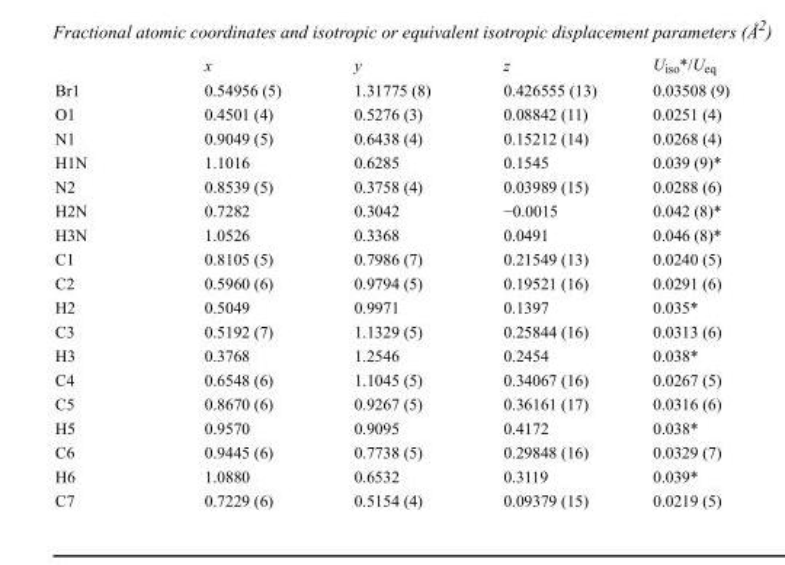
<table><thead><tr><td></td><td>x</td><td>y</td><td>z</td><td>U<sub>iso</sub>*/U<sub>eq</sub></td></tr></thead><tbody><tr><td>Br1</td><td>0.54956 (5)</td><td>1.31775 (8)</td><td>0.426555 (13)</td><td>0.03508 (9)</td></tr><tr><td>O1</td><td>0.4501 (4)</td><td>0.5276 (3)</td><td>0.08842 (11)</td><td>0.0251 (4)</td></tr><tr><td>N1</td><td>0.9049 (5)</td><td>0.6438 (4)</td><td>0.15212 (14)</td><td>0.0268 (4)</td></tr><tr><td>H1N</td><td>1.1016</td><td>0.6285</td><td>0.1545</td><td>0.039 (9)*</td></tr><tr><td>N2</td><td>0.8539 (5)</td><td>0.3758 (4)</td><td>0.03989 (15)</td><td>0.0288 (6)</td></tr><tr><td>H2N</td><td>0.7282</td><td>0.3042</td><td>−0.0015</td><td>0.042 (8)*</td></tr><tr><td>H3N</td><td>1.0526</td><td>0.3368</td><td>0.0491</td><td>0.046 (8)*</td></tr><tr><td>C1</td><td>0.8105 (5)</td><td>0.7986 (7)</td><td>0.21549 (13)</td><td>0.0240 (5)</td></tr><tr><td>C2</td><td>0.5960 (6)</td><td>0.9794 (5)</td><td>0.19521 (16)</td><td>0.0291 (6)</td></tr><tr><td>H2</td><td>0.5049</td><td>0.9971</td><td>0.1397</td><td>0.035*</td></tr><tr><td>C3</td><td>0.5192 (7)</td><td>1.1329 (5)</td><td>0.25844 (16)</td><td>0.0313 (6)</td></tr><tr><td>H3</td><td>0.3768</td><td>1.2546</td><td>0.2454</td><td>0.038*</td></tr><tr><td>C4</td><td>0.6548 (6)</td><td>1.1045 (5)</td><td>0.34067 (16)</td><td>0.0267 (5)</td></tr><tr><td>C5</td><td>0.8670 (6)</td><td>0.9267 (5)</td><td>0.36161 (17)</td><td>0.0316 (6)</td></tr><tr><td>H5</td><td>0.9570</td><td>0.9095</td><td>0.4172</td><td>0.038*</td></tr><tr><td>C6</td><td>0.9445 (6)</td><td>0.7738 (5)</td><td>0.29848 (16)</td><td>0.0329 (7)</td></tr><tr><td>H6</td><td>1.0880</td><td>0.6532</td><td>0.3119</td><td>0.039*</td></tr><tr><td>C7</td><td>0.7229 (6)</td><td>0.5154 (4)</td><td>0.09379 (15)</td><td>0.0219 (5)</td></tr></tbody></table>